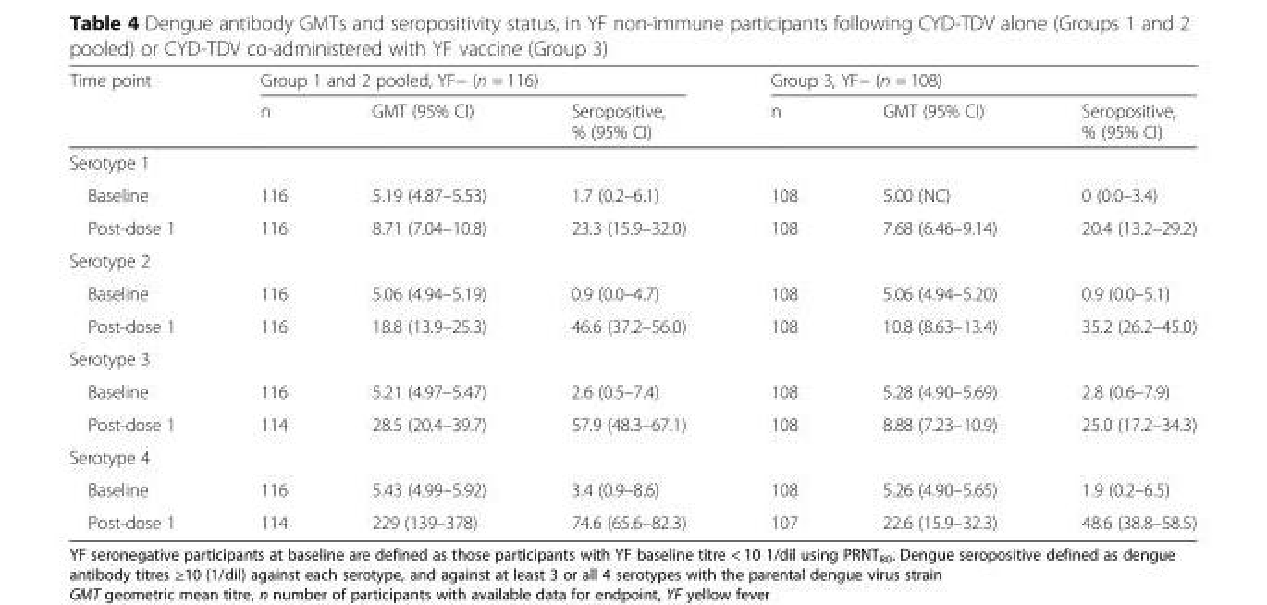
<table><thead><tr><td rowspan="2">Time point</td><td colspan="3">Group 1 and 2 pooled, YF− (n = 116)</td><td colspan="3">Group 3, YF− (n = 108)</td></tr><tr><td>n</td><td>GMT (95% CI)</td><td>Seropositive, % (95% CI)</td><td>n</td><td>GMT (95% CI)</td><td>Seropositive, % (95% CI)</td></tr></thead><tbody><tr><td colspan="7">Serotype 1</td></tr><tr><td>Baseline</td><td>116</td><td>5.19 (4.87–5.53)</td><td>1.7 (0.2–6.1)</td><td>108</td><td>5.00 (NC)</td><td>0 (0.0–3.4)</td></tr><tr><td>Post-dose 1</td><td>116</td><td>8.71 (7.04–10.8)</td><td>23.3 (15.9–32.0)</td><td>108</td><td>7.68 (6.46–9.14)</td><td>20.4 (13.2–29.2)</td></tr><tr><td colspan="7">Serotype 2</td></tr><tr><td>Baseline</td><td>116</td><td>5.06 (4.94–5.19)</td><td>0.9 (0.0–4.7)</td><td>108</td><td>5.06 (4.94–5.20)</td><td>0.9 (0.0–5.1)</td></tr><tr><td>Post-dose 1</td><td>116</td><td>18.8 (13.9–25.3)</td><td>46.6 (37.2–56.0)</td><td>108</td><td>10.8 (8.63–13.4)</td><td>35.2 (26.2–45.0)</td></tr><tr><td colspan="7">Serotype 3</td></tr><tr><td>Baseline</td><td>116</td><td>5.21 (4.97–5.47)</td><td>2.6 (0.5–7.4)</td><td>108</td><td>5.28 (4.90–5.69)</td><td>2.8 (0.6–7.9)</td></tr><tr><td>Post-dose 1</td><td>114</td><td>28.5 (20.4–39.7)</td><td>57.9 (48.3–67.1)</td><td>108</td><td>8.88 (7.23–10.9)</td><td>25.0 (17.2–34.3)</td></tr><tr><td colspan="7">Serotype 4</td></tr><tr><td>Baseline</td><td>116</td><td>5.43 (4.99–5.92)</td><td>3.4 (0.9–8.6)</td><td>108</td><td>5.26 (4.90–5.65)</td><td>1.9 (0.2–6.5)</td></tr><tr><td>Post-dose 1</td><td>114</td><td>229 (139–378)</td><td>74.6 (65.6–82.3)</td><td>107</td><td>22.6 (15.9–32.3)</td><td>48.6 (38.8–58.5)</td></tr></tbody></table>